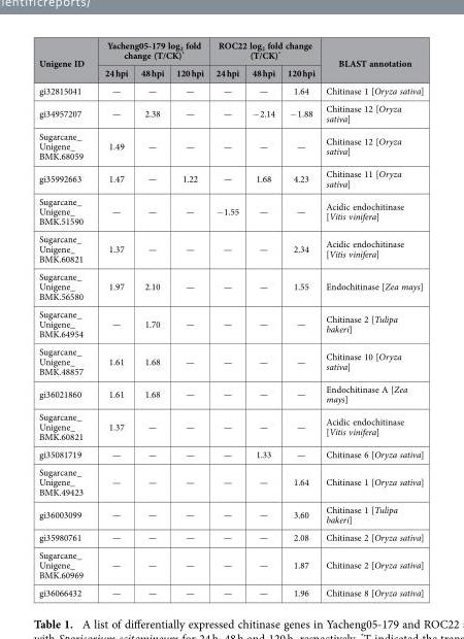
<table><thead><tr><td rowspan="2">Unigene ID</td><td colspan="3">Yacheng05-179 log<sub>2</sub> fold change (T/CK)*</td><td colspan="3">ROC22 log<sub>2</sub> fold change (T/CK)*</td><td rowspan="2">BLAST annotation</td></tr><tr><td>24 hpi</td><td>48 hpi</td><td>120 hpi</td><td>24 hpi</td><td>48 hpi</td><td>120 hpi</td></tr></thead><tbody><tr><td>gi32815041</td><td>—</td><td>—</td><td>—</td><td>—</td><td>—</td><td>1.64</td><td>Chitinase 1 [Oryza sativa]</td></tr><tr><td>gi34957207</td><td>—</td><td>2.38</td><td>—</td><td>—</td><td>− 2.14</td><td>− 1.88</td><td>Chitinase 12 [Oryza sativa]</td></tr><tr><td>Sugarcane_ Unigene_ BMK.68059</td><td>1.49</td><td>—</td><td>—</td><td>—</td><td>—</td><td>—</td><td>Chitinase 12 [Oryza sativa]</td></tr><tr><td>gi35992663</td><td>1.47</td><td>—</td><td>1.22</td><td>—</td><td>1.68</td><td>4.23</td><td>Chitinase 11 [Oryza sativa]</td></tr><tr><td>Sugarcane_ Unigene_ BMK.51590</td><td>—</td><td>—</td><td>—</td><td>− 1.55</td><td>—</td><td>—</td><td>Acidic endochitinase [Vitis vinifera]</td></tr><tr><td>Sugarcane_ Unigene_ BMK.60821</td><td>1.37</td><td>—</td><td>—</td><td>—</td><td>—</td><td>2.34</td><td>Acidic endochitinase [Vitis vinifera]</td></tr><tr><td>Sugarcane_ Unigene_ BMK.56580</td><td>1.97</td><td>2.10</td><td>—</td><td>—</td><td>—</td><td>1.55</td><td>Endochitinase [Zea mays]</td></tr><tr><td>Sugarcane_ Unigene_ BMK.64954</td><td>—</td><td>1.70</td><td>—</td><td>—</td><td>—</td><td>—</td><td>Chitinase 2 [Tulipa bakeri]</td></tr><tr><td>Sugarcane_ Unigene_ BMK.48857</td><td>1.61</td><td>1.68</td><td>—</td><td>—</td><td>—</td><td>—</td><td>Chitinase 10 [Oryza sativa]</td></tr><tr><td>gi36021860</td><td>1.61</td><td>1.68</td><td>—</td><td>—</td><td>—</td><td>—</td><td>Endochitinase A [Zea mays]</td></tr><tr><td>Sugarcane_ Unigene_ BMK.60821</td><td>1.37</td><td>—</td><td>—</td><td>—</td><td>—</td><td>—</td><td>Acidic endochitinase [Vitis vinifera]</td></tr><tr><td>gi35081719</td><td>—</td><td>—</td><td>—</td><td>—</td><td>1.33</td><td>—</td><td>Chitinase 6 [Oryza sativa]</td></tr><tr><td>Sugarcane_ Unigene_ BMK.49423</td><td>—</td><td>—</td><td>—</td><td>—</td><td>—</td><td>1.64</td><td>Chitinase 1 [Oryza sativa]</td></tr><tr><td>gi36003099</td><td>—</td><td>—</td><td>—</td><td>—</td><td>—</td><td>3.60</td><td>Chitinase 1 [Tulipa bakeri]</td></tr><tr><td>gi35980761</td><td>—</td><td>—</td><td>—</td><td>—</td><td>—</td><td>2.08</td><td>Chitinase 2 [Oryza sativa]</td></tr><tr><td>Sugarcane_ Unigene_ BMK.60969</td><td>—</td><td>—</td><td>—</td><td>—</td><td>—</td><td>1.87</td><td>Chitinase 2 [Oryza sativa]</td></tr><tr><td>gi36066432</td><td>—</td><td>—</td><td>—</td><td>—</td><td>—</td><td>1.96</td><td>Chitinase 8 [Oryza sativa]</td></tr></tbody></table>